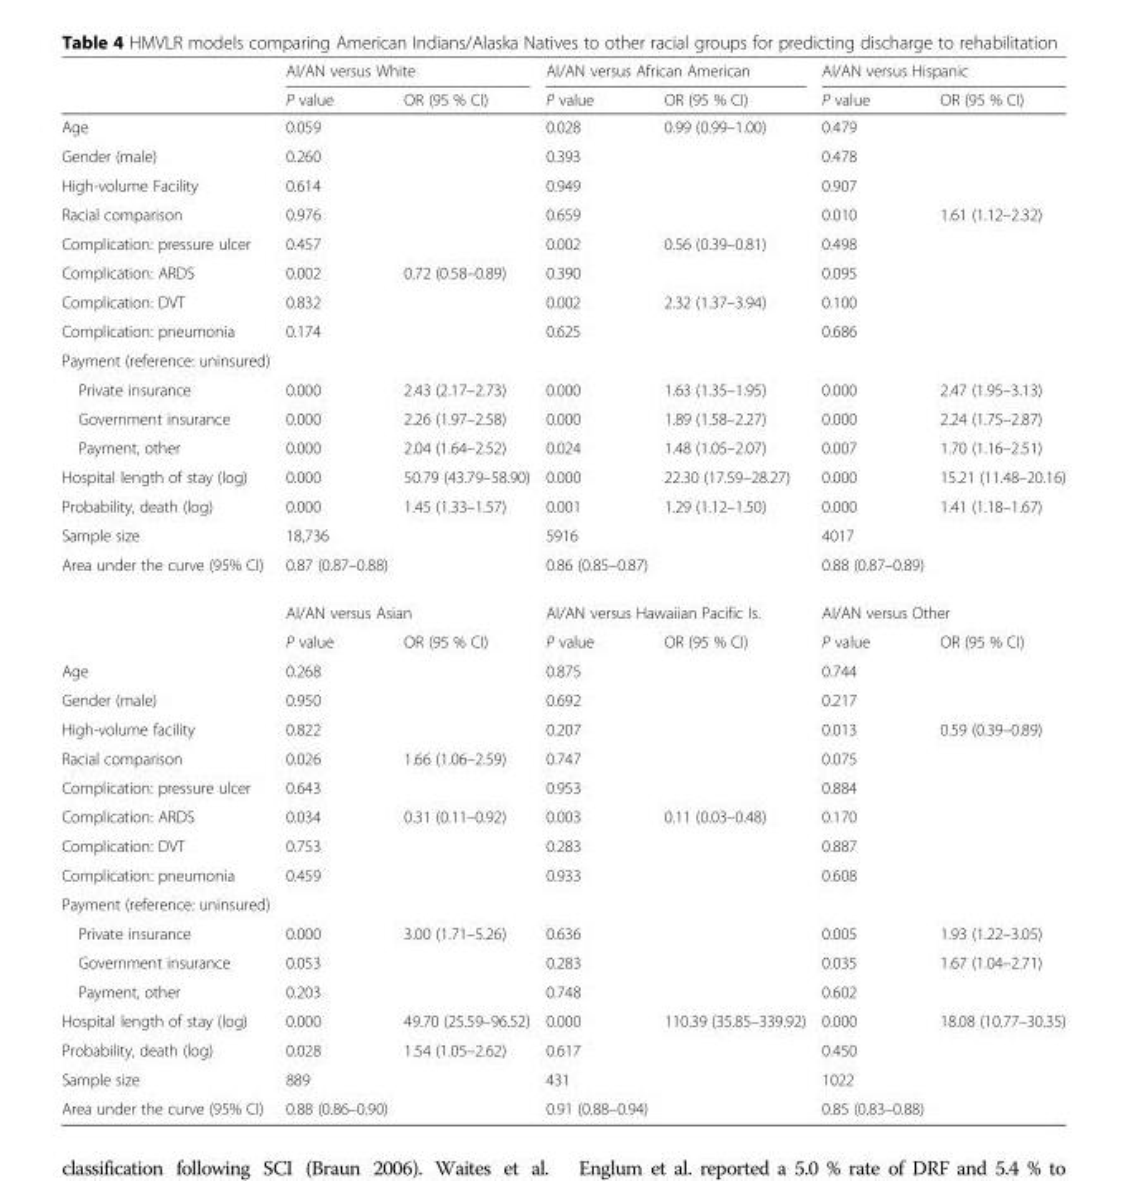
<table><thead><tr><td rowspan="2"></td><td colspan="2">AI/AN versus White</td><td colspan="2">AI/AN versus African American</td><td colspan="2">AI/AN versus Hispanic</td></tr><tr><td>P value</td><td>OR (95 % CI)</td><td>P value</td><td>OR (95 % CI)</td><td>P value</td><td>OR (95 % CI)</td></tr></thead><tbody><tr><td>Age</td><td>0.059</td><td></td><td>0.028</td><td>0.99 (0.99–1.00)</td><td>0.479</td><td></td></tr><tr><td>Gender (male)</td><td>0.260</td><td></td><td>0.393</td><td></td><td>0.478</td><td></td></tr><tr><td>High-volume Facility</td><td>0.614</td><td></td><td>0.949</td><td></td><td>0.907</td><td></td></tr><tr><td>Racial comparison</td><td>0.976</td><td></td><td>0.659</td><td></td><td>0.010</td><td>1.61 (1.12–2.32)</td></tr><tr><td>Complication: pressure ulcer</td><td>0.457</td><td></td><td>0.002</td><td>0.56 (0.39–0.81)</td><td>0.498</td><td></td></tr><tr><td>Complication: ARDS</td><td>0.002</td><td>0.72 (0.58–0.89)</td><td>0.390</td><td></td><td>0.095</td><td></td></tr><tr><td>Complication: DVT</td><td>0.832</td><td></td><td>0.002</td><td>2.32 (1.37–3.94)</td><td>0.100</td><td></td></tr><tr><td>Complication: pneumonia</td><td>0.174</td><td></td><td>0.625</td><td></td><td>0.686</td><td></td></tr><tr><td colspan="7">Payment (reference: uninsured)</td></tr><tr><td>Private insurance</td><td>0.000</td><td>2.43 (2.17–2.73)</td><td>0.000</td><td>1.63 (1.35–1.95)</td><td>0.000</td><td>2.47 (1.95–3.13)</td></tr><tr><td>Government insurance</td><td>0.000</td><td>2.26 (1.97–2.58)</td><td>0.000</td><td>1.89 (1.58–2.27)</td><td>0.000</td><td>2.24 (1.75–2.87)</td></tr><tr><td>Payment, other</td><td>0.000</td><td>2.04 (1.64–2.52)</td><td>0.024</td><td>1.48 (1.05–2.07)</td><td>0.007</td><td>1.70 (1.16–2.51)</td></tr><tr><td>Hospital length of stay (log)</td><td>0.000</td><td>50.79 (43.79–58.90)</td><td>0.000</td><td>22.30 (17.59–28.27)</td><td>0.000</td><td>15.21 (11.48–20.16)</td></tr><tr><td>Probability, death (log)</td><td>0.000</td><td>1.45 (1.33–1.57)</td><td>0.001</td><td>1.29 (1.12–1.50)</td><td>0.000</td><td>1.41 (1.18–1.67)</td></tr><tr><td>Sample size</td><td>18,736</td><td></td><td>5916</td><td></td><td>4017</td><td></td></tr><tr><td rowspan="3">Area under the curve (95% CI)</td><td>0.87 (0.87–0.88)</td><td></td><td>0.86 (0.85–0.87)</td><td></td><td>0.88 (0.87–0.89)</td><td></td></tr><tr><td colspan="2">AI/AN versus Asian</td><td colspan="2">AI/AN versus Hawaiian Pacific Is.</td><td colspan="2">AI/AN versus Other</td></tr><tr><td>P value</td><td>OR (95 % CI)</td><td>P value</td><td>OR (95 % CI)</td><td>P value</td><td>OR (95 % CI)</td></tr><tr><td>Age</td><td>0.268</td><td></td><td>0.875</td><td></td><td>0.744</td><td></td></tr><tr><td>Gender (male)</td><td>0.950</td><td></td><td>0.692</td><td></td><td>0.217</td><td></td></tr><tr><td>High-volume facility</td><td>0.822</td><td></td><td>0.207</td><td></td><td>0.013</td><td>0.59 (0.39–0.89)</td></tr><tr><td>Racial comparison</td><td>0.026</td><td>1.66 (1.06–2.59)</td><td>0.747</td><td></td><td>0.075</td><td></td></tr><tr><td>Complication: pressure ulcer</td><td>0.643</td><td></td><td>0.953</td><td></td><td>0.884</td><td></td></tr><tr><td>Complication: ARDS</td><td>0.034</td><td>0.31 (0.11–0.92)</td><td>0.003</td><td>0.11 (0.03–0.48)</td><td>0.170</td><td></td></tr><tr><td>Complication: DVT</td><td>0.753</td><td></td><td>0.283</td><td></td><td>0.887</td><td></td></tr><tr><td>Complication: pneumonia</td><td>0.459</td><td></td><td>0.933</td><td></td><td>0.608</td><td></td></tr><tr><td colspan="7">Payment (reference: uninsured)</td></tr><tr><td>Private insurance</td><td>0.000</td><td>3.00 (1.71–5.26)</td><td>0.636</td><td></td><td>0.005</td><td>1.93 (1.22–3.05)</td></tr><tr><td>Government insurance</td><td>0.053</td><td></td><td>0.283</td><td></td><td>0.035</td><td>1.67 (1.04–2.71)</td></tr><tr><td>Payment, other</td><td>0.203</td><td></td><td>0.748</td><td></td><td>0.602</td><td></td></tr><tr><td>Hospital length of stay (log)</td><td>0.000</td><td>49.70 (25.59–96.52)</td><td>0.000</td><td>110.39 (35.85–339.92)</td><td>0.000</td><td>18.08 (10.77–30.35)</td></tr><tr><td>Probability, death (log)</td><td>0.028</td><td>1.54 (1.05–2.62)</td><td>0.617</td><td></td><td>0.450</td><td></td></tr><tr><td>Sample size</td><td>889</td><td></td><td>431</td><td></td><td>1022</td><td></td></tr><tr><td>Area under the curve (95% CI)</td><td>0.88 (0.86–0.90)</td><td></td><td>0.91 (0.88–0.94)</td><td></td><td>0.85 (0.83–0.88)</td><td></td></tr></tbody></table>